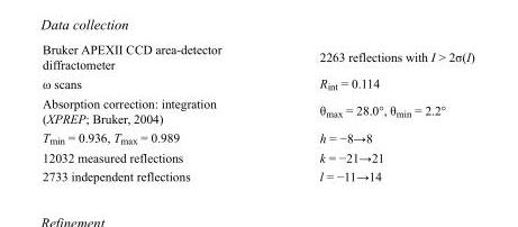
<table><tbody><tr><td>Bruker APEXII CCD area-detector diffractometer</td><td>2263 reflections with I &gt; 2σ(I)</td></tr><tr><td>ω scans</td><td>R<sub>int</sub> = 0.114</td></tr><tr><td>Absorption correction: integration (XPREP; Bruker, 2004)</td><td>θ<sub>max</sub> = 28.0°, θ<sub>min</sub> = 2.2°</td></tr><tr><td>T<sub>min</sub> = 0.936, T<sub>max</sub> = 0.989</td><td>h = −8→8</td></tr><tr><td>12032 measured reflections</td><td>k = −21→21</td></tr><tr><td>2733 independent reflections</td><td>l = −11→14</td></tr></tbody></table>